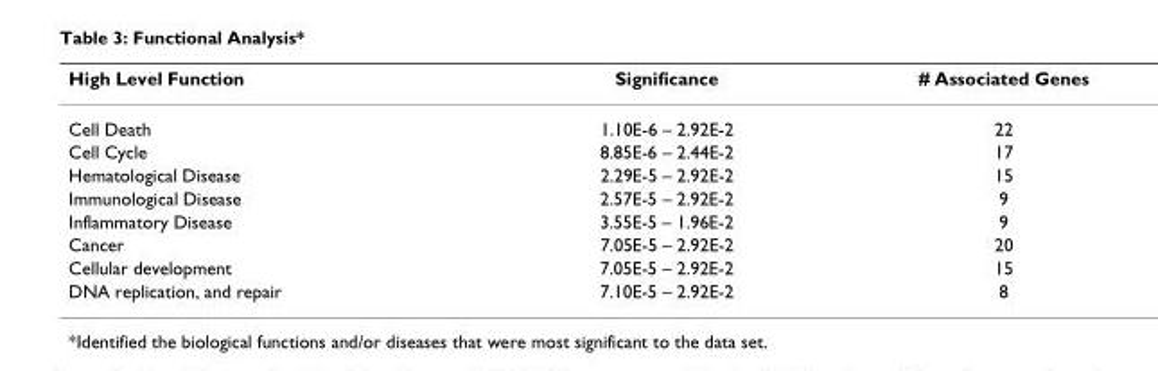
<table><thead><tr><td>High Level Function</td><td>Significance</td><td># Associated Genes</td></tr></thead><tbody><tr><td>Cell Death</td><td>1.10E-6 – 2.92E-2</td><td>22</td></tr><tr><td>Cell Cycle</td><td>8.85E-6 – 2.44E-2</td><td>17</td></tr><tr><td>Hematological Disease</td><td>2.29E-5 – 2.92E-2</td><td>15</td></tr><tr><td>Immunological Disease</td><td>2.57E-5 – 2.92E-2</td><td>9</td></tr><tr><td>Inflammatory Disease</td><td>3.55E-5 – 1.96E-2</td><td>9</td></tr><tr><td>Cancer</td><td>7.05E-5 – 2.92E-2</td><td>20</td></tr><tr><td>Cellular development</td><td>7.05E-5 – 2.92E-2</td><td>15</td></tr><tr><td>DNA replication, and repair</td><td>7.10E-5 – 2.92E-2</td><td>8</td></tr></tbody></table>